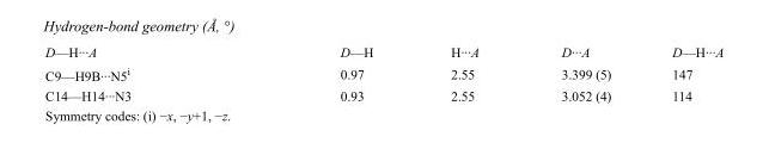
<table><tbody><tr><td>D—H···A</td><td>D—H</td><td>H···A</td><td>D···A</td><td>D—H···A</td></tr><tr><td>C9—H9B···N5<sup>i</sup></td><td>0.97</td><td>2.55</td><td>3.399 (5)</td><td>147</td></tr><tr><td>C14—H14···N3</td><td>0.93</td><td>2.55</td><td>3.052 (4)</td><td>114</td></tr></tbody></table>